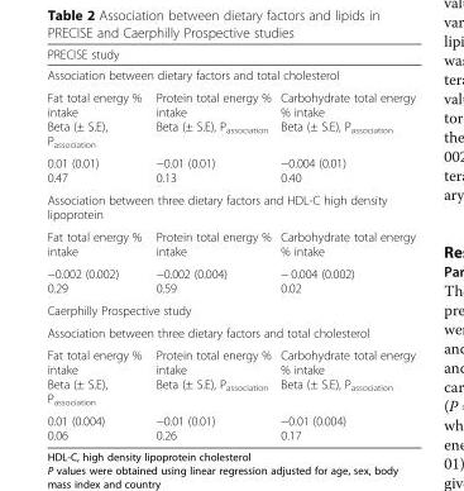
<table><thead><tr><td rowspan="2" colspan="3">PRECISE study Association between dietary factors and total cholesterol</td></tr><tr></tr><tr><td>Fat total energy % intake Beta (± S.E), P<sub>association</sub></td><td>Protein total energy % intake Beta (± S.E), P<sub>association</sub></td><td>Carbohydrate total energy % intake Beta (± S.E), P<sub>association</sub></td></tr></thead><tbody><tr><td>0.01 (0.01) 0.47</td><td>−0.01 (0.01) 0.13</td><td>−0.004 (0.01) 0.40</td></tr><tr><td colspan="3">Association between three dietary factors and HDL-C high density lipoprotein</td></tr><tr><td>Fat total energy % intake</td><td>Protein total energy % intake</td><td>Carbohydrate total energy % intake</td></tr><tr><td>−0.002 (0.002) 0.29</td><td>−0.002 (0.004) 0.59</td><td>− 0.004 (0.002) 0.02</td></tr><tr><td colspan="3">Caerphilly Prospective study</td></tr><tr><td colspan="3">Association between three dietary factors and total cholesterol</td></tr><tr><td>Fat total energy % intake Beta (± S.E), P<sub>association</sub></td><td>Protein total energy % intake Beta (± S.E), P<sub>association</sub></td><td>Carbohydrate total energy % intake Beta (± S.E), P<sub>association</sub></td></tr><tr><td>0.01 (0.004) 0.06</td><td>−0.01 (0.01) 0.26</td><td>−0.01 (0.004) 0.17</td></tr></tbody></table>